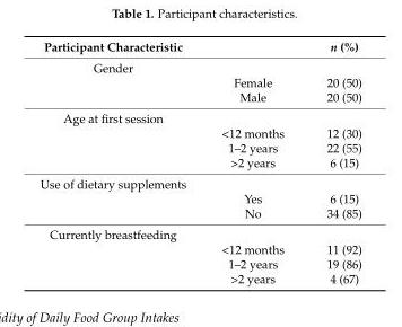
<table><thead><tr><td>Participant Characteristic</td><td></td><td>n (%)</td></tr></thead><tbody><tr><td colspan="3">Gender</td></tr><tr><td></td><td>Female</td><td>20 (50)</td></tr><tr><td></td><td>Male</td><td>20 (50)</td></tr><tr><td colspan="3">Age at first session</td></tr><tr><td></td><td>&lt;12 months</td><td>12 (30)</td></tr><tr><td></td><td>1–2 years</td><td>22 (55)</td></tr><tr><td></td><td>&gt;2 years</td><td>6 (15)</td></tr><tr><td colspan="3">Use of dietary supplements</td></tr><tr><td></td><td>Yes</td><td>6 (15)</td></tr><tr><td></td><td>No</td><td>34 (85)</td></tr><tr><td colspan="3">Currently breastfeeding</td></tr><tr><td></td><td>&lt;12 months</td><td>11 (92)</td></tr><tr><td></td><td>1–2 years</td><td>19 (86)</td></tr><tr><td></td><td>&gt;2 years</td><td>4 (67)</td></tr></tbody></table>